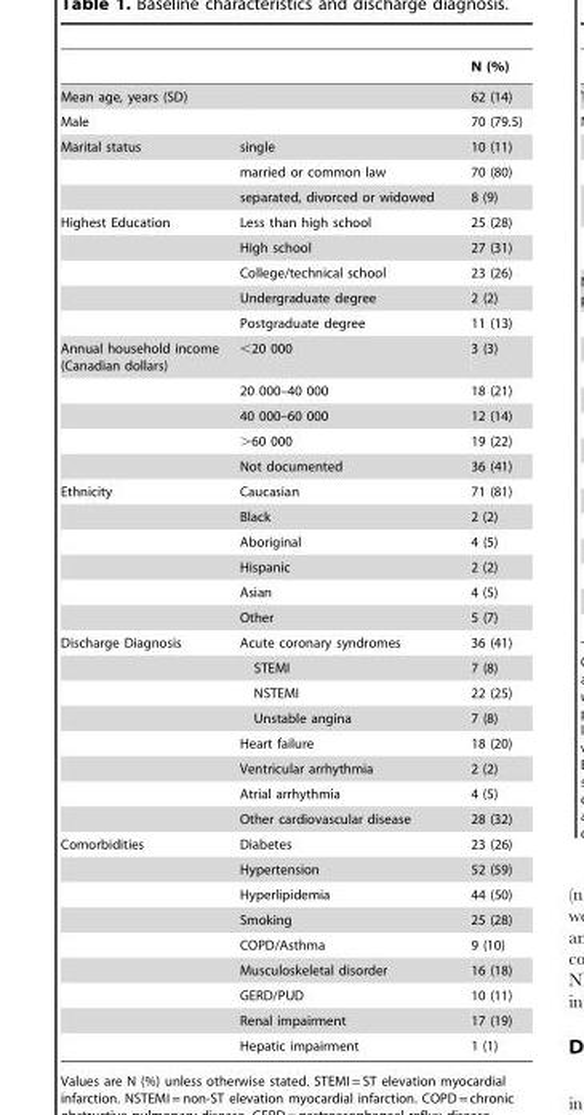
<table><thead><tr><td></td><td></td><td>N (%)</td></tr></thead><tbody><tr><td>Mean age, years (SD)</td><td></td><td>62 (14)</td></tr><tr><td>Male</td><td></td><td>70 (79.5)</td></tr><tr><td rowspan="3">Marital status</td><td>single</td><td>10 (11)</td></tr><tr><td>married or common law</td><td>70 (80)</td></tr><tr><td>separated, divorced or widowed</td><td>8 (9)</td></tr><tr><td rowspan="5">Highest Education</td><td>Less than high school</td><td>25 (28)</td></tr><tr><td>High school</td><td>27 (31)</td></tr><tr><td>College/technical school</td><td>23 (26)</td></tr><tr><td>Undergraduate degree</td><td>2 (2)</td></tr><tr><td>Postgraduate degree</td><td>11 (13)</td></tr><tr><td rowspan="5">Annual household income (Canadian dollars)</td><td>&lt;20 000</td><td>3 (3)</td></tr><tr><td>20 000–40 000</td><td>18 (21)</td></tr><tr><td>40 000–60 000</td><td>12 (14)</td></tr><tr><td>&gt;60 000</td><td>19 (22)</td></tr><tr><td>Not documented</td><td>36 (41)</td></tr><tr><td rowspan="6">Ethnicity</td><td>Caucasian</td><td>71 (81)</td></tr><tr><td>Black</td><td>2 (2)</td></tr><tr><td>Aboriginal</td><td>4 (5)</td></tr><tr><td>Hispanic</td><td>2 (2)</td></tr><tr><td>Asian</td><td>4 (5)</td></tr><tr><td>Other</td><td>5 (7)</td></tr><tr><td rowspan="8">Discharge Diagnosis</td><td>Acute coronary syndromes</td><td>36 (41)</td></tr><tr><td>STEMI</td><td>7 (8)</td></tr><tr><td>NSTEMI</td><td>22 (25)</td></tr><tr><td>Unstable angina</td><td>7 (8)</td></tr><tr><td>Heart failure</td><td>18 (20)</td></tr><tr><td>Ventricular arrhythmia</td><td>2 (2)</td></tr><tr><td>Atrial arrhythmia</td><td>4 (5)</td></tr><tr><td>Other cardiovascular disease</td><td>28 (32)</td></tr><tr><td rowspan="9">Comorbidities</td><td>Diabetes</td><td>23 (26)</td></tr><tr><td>Hypertension</td><td>52 (59)</td></tr><tr><td>Hyperlipidemia</td><td>44 (50)</td></tr><tr><td>Smoking</td><td>25 (28)</td></tr><tr><td>COPD/Asthma</td><td>9 (10)</td></tr><tr><td>Musculoskeletal disorder</td><td>16 (18)</td></tr><tr><td>GERD/PUD</td><td>10 (11)</td></tr><tr><td>Renal impairment</td><td>17 (19)</td></tr><tr><td>Hepatic impairment</td><td>1 (1)</td></tr></tbody></table>